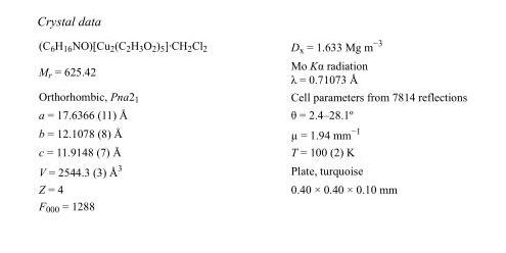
<table><tbody><tr><td>(C<sub>6</sub>H<sub>16</sub>NO)[Cu<sub>2</sub>(C<sub>2</sub>H<sub>3</sub>O<sub>2</sub>)<sub>5</sub>]·CH<sub>2</sub>Cl<sub>2</sub></td><td>D<sub>x</sub> = 1.633 Mg m<sup>−3</sup></td></tr><tr><td>M<sub>r</sub> = 625.42</td><td>Mo Kα radiation λ = 0.71073 Å</td></tr><tr><td>Orthorhombic, Pna2<sub>1</sub></td><td>Cell parameters from 7814 reflections</td></tr><tr><td>a = 17.6366 (11) Å</td><td>θ = 2.4–28.1º</td></tr><tr><td>b = 12.1078 (8) Å</td><td>µ = 1.94 mm<sup>−1</sup></td></tr><tr><td>c = 11.9148 (7) Å</td><td>T = 100 (2) K</td></tr><tr><td>V = 2544.3 (3) Å<sup>3</sup></td><td>Plate, turquoise</td></tr><tr><td>Z = 4</td><td>0.40 × 0.40 × 0.10 mm</td></tr><tr><td>F000 = 1288</td><td></td></tr></tbody></table>